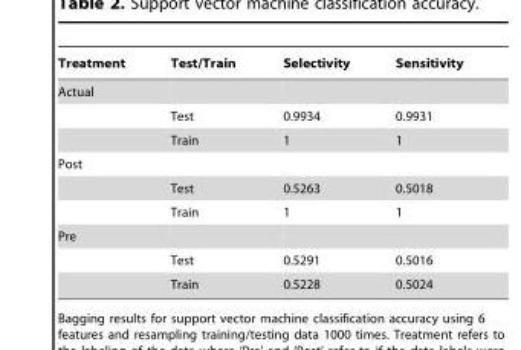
<table><thead><tr><td>Treatment</td><td>Test/Train</td><td>Selectivity</td><td>Sensitivity</td></tr></thead><tbody><tr><td colspan="4">Actual</td></tr><tr><td></td><td>Test</td><td>0.9934</td><td>0.9931</td></tr><tr><td></td><td>Train</td><td>1</td><td>1</td></tr><tr><td colspan="4">Post</td></tr><tr><td></td><td>Test</td><td>0.5263</td><td>0.5018</td></tr><tr><td></td><td>Train</td><td>1</td><td>1</td></tr><tr><td colspan="4">Pre</td></tr><tr><td></td><td>Test</td><td>0.5291</td><td>0.5016</td></tr><tr><td></td><td>Train</td><td>0.5228</td><td>0.5024</td></tr></tbody></table>